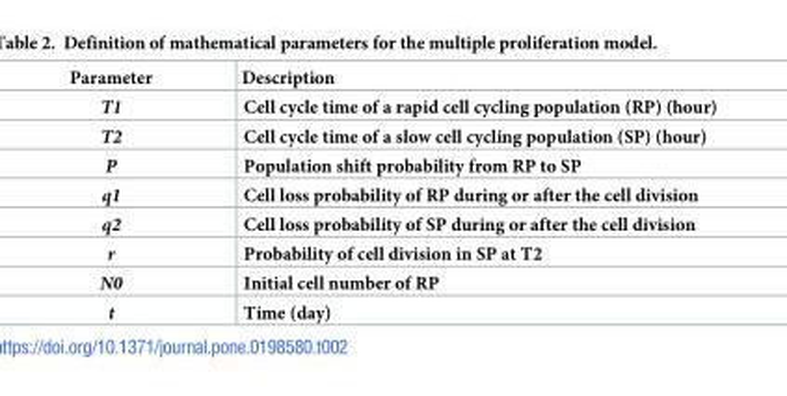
<table><thead><tr><td>Parameter</td><td>Description</td></tr></thead><tbody><tr><td>T1</td><td>Cell cycle time of a rapid cell cycling population (RP) (hour)</td></tr><tr><td>T2</td><td>Cell cycle time of a slow cell cycling population (SP) (hour)</td></tr><tr><td>P</td><td>Population shift probability from RP to SP</td></tr><tr><td>q1</td><td>Cell loss probability of RP during or after the cell division</td></tr><tr><td>q2</td><td>Cell loss probability of SP during or after the cell division</td></tr><tr><td>r</td><td>Probability of cell division in SP at T2</td></tr><tr><td>N0</td><td>Initial cell number of RP</td></tr><tr><td>t</td><td>Time (day)</td></tr></tbody></table>